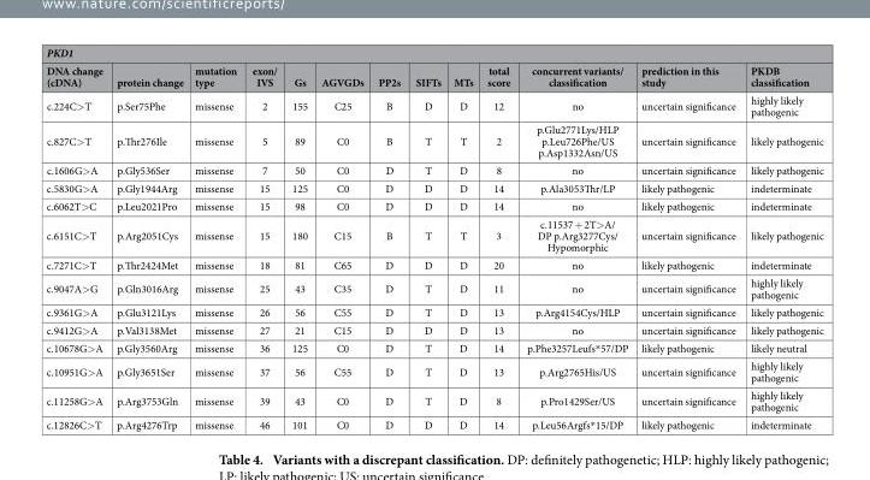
<table><thead><tr><td colspan="13">PKD1</td></tr><tr><td>DNA change (cDNA)</td><td>protein change</td><td>mutation type</td><td>exon/ IVS</td><td>Gs</td><td>AGVGDs</td><td>PP2s</td><td>SIFTs</td><td>MTs</td><td>total score</td><td>concurrent variants/ classification</td><td>prediction in this study</td><td>PKDB classification</td></tr></thead><tbody><tr><td>c.224C&gt; T</td><td>p.Ser75Phe</td><td>missense</td><td>2</td><td>155</td><td>C25</td><td>B</td><td>D</td><td>D</td><td>12</td><td>no</td><td>uncertain significance</td><td>highly likely pathogenic</td></tr><tr><td>c.827C&gt; T</td><td>p.Thr276Ile</td><td>missense</td><td>5</td><td>89</td><td>C0</td><td>B</td><td>T</td><td>T</td><td>2</td><td>p.Glu2771Lys/HLP p.Leu726Phe/US p.Asp1332Asn/US</td><td>uncertain significance</td><td>likely pathogenic</td></tr><tr><td>c.1606G&gt; A</td><td>p.Gly536Ser</td><td>missense</td><td>7</td><td>50</td><td>C0</td><td>D</td><td>T</td><td>D</td><td>8</td><td>no</td><td>uncertain significance</td><td>likely pathogenic</td></tr><tr><td>c.5830G&gt; A</td><td>p.Gly1944Arg</td><td>missense</td><td>15</td><td>125</td><td>C0</td><td>D</td><td>D</td><td>D</td><td>14</td><td>p.Ala3053Thr/LP</td><td>likely pathogenic</td><td>indeterminate</td></tr><tr><td>c.6062T&gt; C</td><td>p.Leu2021Pro</td><td>missense</td><td>15</td><td>98</td><td>C0</td><td>D</td><td>D</td><td>D</td><td>14</td><td>no</td><td>likely pathogenic</td><td>indeterminate</td></tr><tr><td>c.6151C&gt; T</td><td>p.Arg2051Cys</td><td>missense</td><td>15</td><td>180</td><td>C15</td><td>B</td><td>T</td><td>T</td><td>3</td><td>c.11537 + 2T&gt; A/ DP p.Arg3277Cys/ Hypomorphic</td><td>uncertain significance</td><td>likely pathogenic</td></tr><tr><td>c.7271C&gt; T</td><td>p.Thr2424Met</td><td>missense</td><td>18</td><td>81</td><td>C65</td><td>D</td><td>D</td><td>D</td><td>20</td><td>no</td><td>likely pathogenic</td><td>indeterminate</td></tr><tr><td>c.9047A&gt; G</td><td>p.Gln3016Arg</td><td>missense</td><td>25</td><td>43</td><td>C35</td><td>D</td><td>T</td><td>D</td><td>11</td><td>no</td><td>uncertain significance</td><td>highly likely pathogenic</td></tr><tr><td>c.9361G&gt; A</td><td>p.Glu3121Lys</td><td>missense</td><td>26</td><td>56</td><td>C55</td><td>D</td><td>T</td><td>D</td><td>13</td><td>p.Arg4154Cys/HLP</td><td>uncertain significance</td><td>likely pathogenic</td></tr><tr><td>c.9412G&gt; A</td><td>p.Val3138Met</td><td>missense</td><td>27</td><td>21</td><td>C15</td><td>D</td><td>D</td><td>D</td><td>13</td><td>no</td><td>uncertain significance</td><td>likely pathogenic</td></tr><tr><td>c.10678G&gt; A</td><td>p.Gly3560Arg</td><td>missense</td><td>36</td><td>125</td><td>C0</td><td>D</td><td>T</td><td>D</td><td>14</td><td>p.Phe3257Leufs* 57/DP</td><td>likely pathogenic</td><td>likely neutral</td></tr><tr><td>c.10951G&gt; A</td><td>p.Gly3651Ser</td><td>missense</td><td>37</td><td>56</td><td>C55</td><td>D</td><td>T</td><td>D</td><td>13</td><td>p.Arg2765His/US</td><td>uncertain significance</td><td>highly likely pathogenic</td></tr><tr><td>c.11258G&gt; A</td><td>p.Arg3753Gln</td><td>missense</td><td>39</td><td>43</td><td>C0</td><td>D</td><td>T</td><td>D</td><td>8</td><td>p.Pro1429Ser/US</td><td>uncertain significance</td><td>highly likely pathogenic</td></tr><tr><td>c.12826C&gt; T</td><td>p.Arg4276Trp</td><td>missense</td><td>46</td><td>101</td><td>C0</td><td>D</td><td>D</td><td>D</td><td>14</td><td>p.Leu56Argfs* 15/DP</td><td>likely pathogenic</td><td>indeterminate</td></tr></tbody></table>